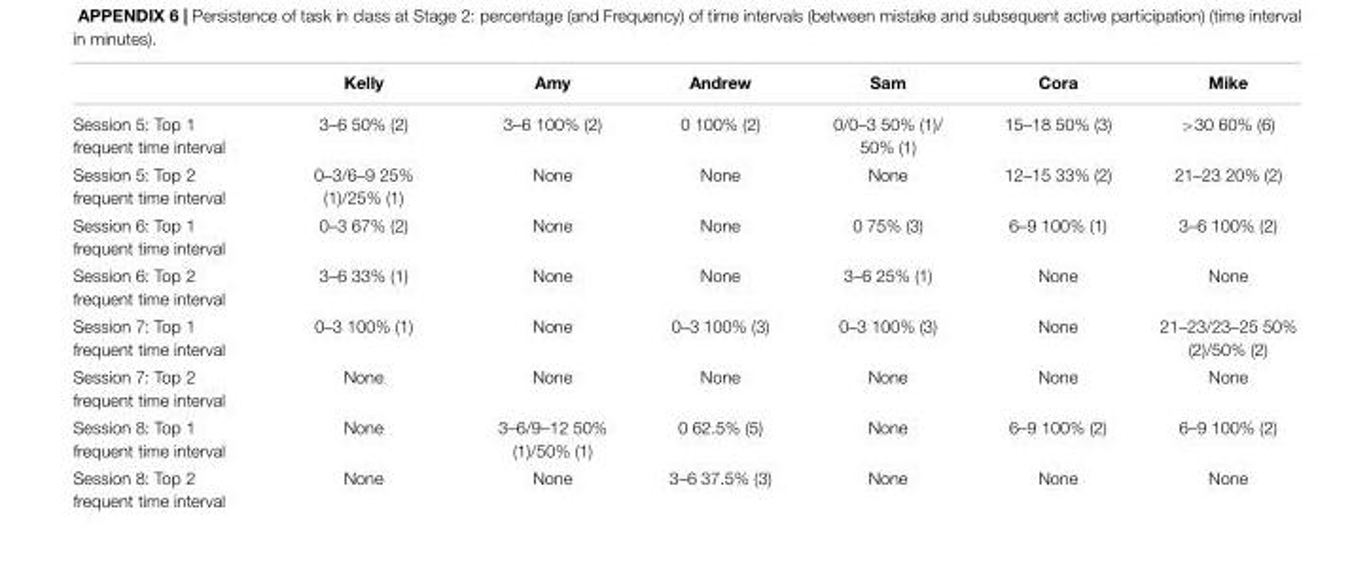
<table><thead><tr><td></td><td>Kelly</td><td>Amy</td><td>Andrew</td><td>Sam</td><td>Cora</td><td>Mike</td></tr></thead><tbody><tr><td>Session 5: Top 1 frequent time interval</td><td>3–6 50% (2)</td><td>3–6 100% (2)</td><td>0 100% (2)</td><td>0/0–3 50% (1)/ 50% (1)</td><td>15–18 50% (3)</td><td>&gt;30 60% (6)</td></tr><tr><td>Session 5: Top 2 frequent time interval</td><td>0–3/6–9 25% (1)/25% (1)</td><td>None</td><td>None</td><td>None</td><td>12–15 33% (2)</td><td>21–23 20% (2)</td></tr><tr><td>Session 6: Top 1 frequent time interval</td><td>0–3 67% (2)</td><td>None</td><td>None</td><td>0 75% (3)</td><td>6–9 100% (1)</td><td>3–6 100% (2)</td></tr><tr><td>Session 6: Top 2 frequent time interval</td><td>3–6 33% (1)</td><td>None</td><td>None</td><td>3–6 25% (1)</td><td>None</td><td>None</td></tr><tr><td>Session 7: Top 1 frequent time interval</td><td>0–3 100% (1)</td><td>None</td><td>0–3 100% (3)</td><td>0–3 100% (3)</td><td>None</td><td>21–23/23–25 50% (2)/50% (2)</td></tr><tr><td>Session 7: Top 2 frequent time interval</td><td>None</td><td>None</td><td>None</td><td>None</td><td>None</td><td>None</td></tr><tr><td>Session 8: Top 1 frequent time interval</td><td>None</td><td>3–6/9–12 50% (1)/50% (1)</td><td>0 62.5% (5)</td><td>None</td><td>6–9 100% (2)</td><td>6–9 100% (2)</td></tr><tr><td>Session 8: Top 2 frequent time interval</td><td>None</td><td>None</td><td>3–6 37.5% (3)</td><td>None</td><td>None</td><td>None</td></tr></tbody></table>